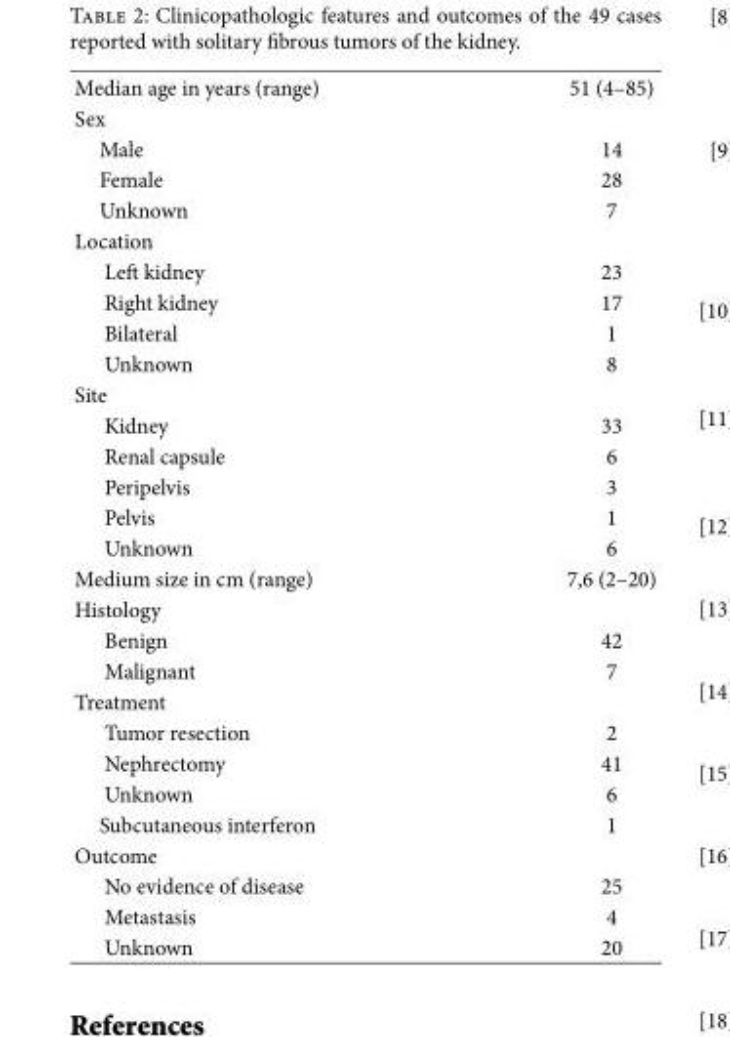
<table><tbody><tr><td>Median age in years (range)</td><td>51 (4–85)</td></tr><tr><td colspan="2">Sex</td></tr><tr><td>Male</td><td>14</td></tr><tr><td>Female</td><td>28</td></tr><tr><td>Unknown</td><td>7</td></tr><tr><td colspan="2">Location</td></tr><tr><td>Le kidney</td><td>23</td></tr><tr><td>Right kidney</td><td>17</td></tr><tr><td>Bilateral</td><td>1</td></tr><tr><td>Unknown</td><td>8</td></tr><tr><td colspan="2">Site</td></tr><tr><td>Kidney</td><td>33</td></tr><tr><td>Renal capsule</td><td>6</td></tr><tr><td>Peripelvis</td><td>3</td></tr><tr><td>Pelvis</td><td>1</td></tr><tr><td>Unknown</td><td>6</td></tr><tr><td>Medium size in cm (range)</td><td>7,6 (2–20)</td></tr><tr><td colspan="2">Histology</td></tr><tr><td>Benign</td><td>42</td></tr><tr><td>Malignant</td><td>7</td></tr><tr><td colspan="2">Treatment</td></tr><tr><td>Tumor resection</td><td>2</td></tr><tr><td>Nephrectomy</td><td>41</td></tr><tr><td>Unknown</td><td>6</td></tr><tr><td>Subcutaneous interferon</td><td>1</td></tr><tr><td colspan="2">Outcome</td></tr><tr><td>No evidence of disease</td><td>25</td></tr><tr><td>Metastasis</td><td>4</td></tr><tr><td>Unknown</td><td>20</td></tr></tbody></table>